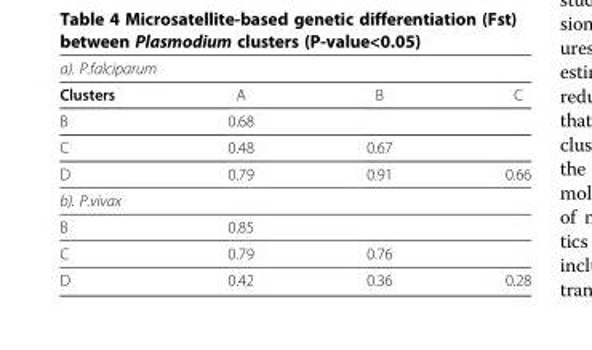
<table><thead><tr><td colspan="4">a). P.falciparum</td></tr><tr><td>Clusters</td><td>A</td><td>B</td><td>C</td></tr></thead><tbody><tr><td>B</td><td>0.68</td><td></td><td></td></tr><tr><td>C</td><td>0.48</td><td>0.67</td><td></td></tr><tr><td>D</td><td>0.79</td><td>0.91</td><td>0.66</td></tr><tr><td colspan="4">b). P.vivax</td></tr><tr><td>B</td><td>0.85</td><td></td><td></td></tr><tr><td>C</td><td>0.79</td><td>0.76</td><td></td></tr><tr><td>D</td><td>0.42</td><td>0.36</td><td>0.28</td></tr></tbody></table>